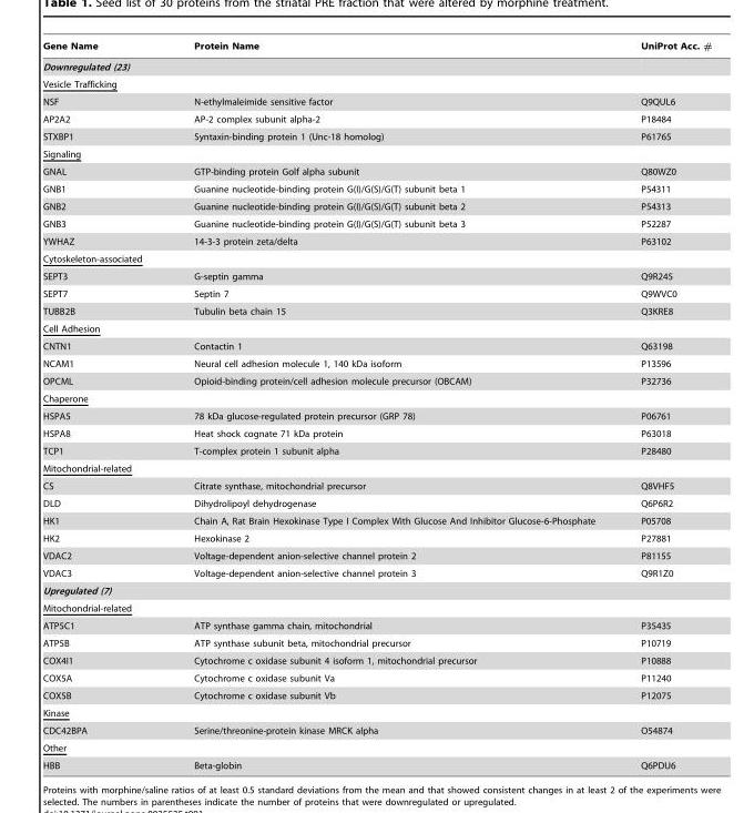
<table><thead><tr><td>Gene Name</td><td>Protein Name</td><td>UniProt Acc. #</td></tr></thead><tbody><tr><td colspan="3">Downregulated (23)</td></tr><tr><td colspan="3">Vesicle Trafficking</td></tr><tr><td>NSF</td><td>N-ethylmaleimide sensitive factor</td><td>Q9QUL6</td></tr><tr><td>AP2A2</td><td>AP-2 complex subunit alpha-2</td><td>P18484</td></tr><tr><td>STXBP1</td><td>Syntaxin-binding protein 1 (Unc-18 homolog)</td><td>P61765</td></tr><tr><td colspan="3">Signaling</td></tr><tr><td>GNAL</td><td>GTP-binding protein Golf alpha subunit</td><td>Q80WZ0</td></tr><tr><td>GNB1</td><td>Guanine nucleotide-binding protein G(I)/G(S)/G(T) subunit beta 1</td><td>P54311</td></tr><tr><td>GNB2</td><td>Guanine nucleotide-binding protein G(I)/G(S)/G(T) subunit beta 2</td><td>P54313</td></tr><tr><td>GNB3</td><td>Guanine nucleotide-binding protein G(I)/G(S)/G(T) subunit beta 3</td><td>P52287</td></tr><tr><td>YWHAZ</td><td>14-3-3 protein zeta/delta</td><td>P63102</td></tr><tr><td colspan="3">Cytoskeleton-associated</td></tr><tr><td>SEPT3</td><td>G-septin gamma</td><td>Q9R245</td></tr><tr><td>SEPT7</td><td>Septin 7</td><td>Q9WVC0</td></tr><tr><td>TUBB2B</td><td>Tubulin beta chain 15</td><td>Q3KRE8</td></tr><tr><td colspan="3">Cell Adhesion</td></tr><tr><td>CNTN1</td><td>Contactin 1</td><td>Q63198</td></tr><tr><td>NCAM1</td><td>Neural cell adhesion molecule 1, 140 kDa isoform</td><td>P13596</td></tr><tr><td>OPCML</td><td>Opioid-binding protein/cell adhesion molecule precursor (OBCAM)</td><td>P32736</td></tr><tr><td colspan="3">Chaperone</td></tr><tr><td>HSPA5</td><td>78 kDa glucose-regulated protein precursor (GRP 78)</td><td>P06761</td></tr><tr><td>HSPA8</td><td>Heat shock cognate 71 kDa protein</td><td>P63018</td></tr><tr><td>TCP1</td><td>T-complex protein 1 subunit alpha</td><td>P28480</td></tr><tr><td colspan="3">Mitochondrial-related</td></tr><tr><td>CS</td><td>Citrate synthase, mitochondrial precursor</td><td>Q8VHF5</td></tr><tr><td>DLD</td><td>Dihydrolipoyl dehydrogenase</td><td>Q6P6R2</td></tr><tr><td>HK1</td><td>Chain A, Rat Brain Hexokinase Type I Complex With Glucose And Inhibitor Glucose-6-Phosphate</td><td>P05708</td></tr><tr><td>HK2</td><td>Hexokinase 2</td><td>P27881</td></tr><tr><td>VDAC2</td><td>Voltage-dependent anion-selective channel protein 2</td><td>P81155</td></tr><tr><td>VDAC3</td><td>Voltage-dependent anion-selective channel protein 3</td><td>Q9R1Z0</td></tr><tr><td colspan="3">Upregulated (7)</td></tr><tr><td colspan="3">Mitochondrial-related</td></tr><tr><td>ATP5C1</td><td>ATP synthase gamma chain, mitochondrial</td><td>P35435</td></tr><tr><td>ATP5B</td><td>ATP synthase subunit beta, mitochondrial precursor</td><td>P10719</td></tr><tr><td>COX4I1</td><td>Cytochrome c oxidase subunit 4 isoform 1, mitochondrial precursor</td><td>P10888</td></tr><tr><td>COX5A</td><td>Cytochrome c oxidase subunit Va</td><td>P11240</td></tr><tr><td>COX5B</td><td>Cytochrome c oxidase subunit Vb</td><td>P12075</td></tr><tr><td colspan="3">Kinase</td></tr><tr><td>CDC42BPA</td><td>Serine/threonine-protein kinase MRCK alpha</td><td>O54874</td></tr><tr><td colspan="3">Other</td></tr><tr><td>HBB</td><td>Beta-globin</td><td>Q6PDU6</td></tr></tbody></table>